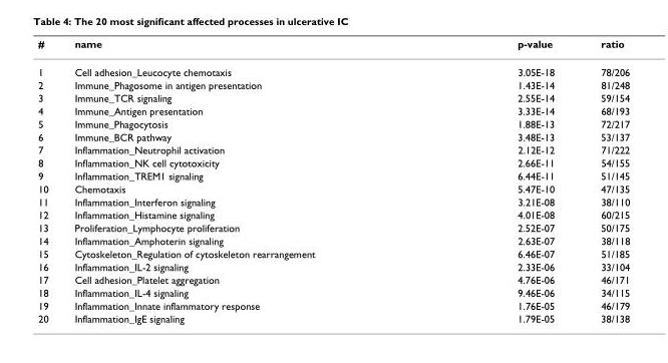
<table><thead><tr><td>#</td><td>name</td><td>p-value</td><td>ratio</td></tr></thead><tbody><tr><td>1</td><td>Cell adhesion_Leucocyte chemotaxis</td><td>3.05E-18</td><td>78/206</td></tr><tr><td>2</td><td>Immune_Phagosome in antigen presentation</td><td>1.43E-14</td><td>81/248</td></tr><tr><td>3</td><td>Immune_TCR signaling</td><td>2.55E-14</td><td>59/154</td></tr><tr><td>4</td><td>Immune_Antigen presentation</td><td>3.33E-14</td><td>68/193</td></tr><tr><td>5</td><td>Immune_Phagocytosis</td><td>1.88E-13</td><td>72/217</td></tr><tr><td>6</td><td>Immune_BCR pathway</td><td>3.48E-13</td><td>53/137</td></tr><tr><td>7</td><td>Inflammation_Neutrophil activation</td><td>2.12E-12</td><td>71/222</td></tr><tr><td>8</td><td>Inflammation_NK cell cytotoxicity</td><td>2.66E-11</td><td>54/155</td></tr><tr><td>9</td><td>Inflammation_TREM1 signaling</td><td>6.44E-11</td><td>51/145</td></tr><tr><td>10</td><td>Chemotaxis</td><td>5.47E-10</td><td>47/135</td></tr><tr><td>11</td><td>Inflammation_Interferon signaling</td><td>3.21E-08</td><td>38/110</td></tr><tr><td>12</td><td>Inflammation_Histamine signaling</td><td>4.01E-08</td><td>60/215</td></tr><tr><td>13</td><td>Proliferation_Lymphocyte proliferation</td><td>2.52E-07</td><td>50/175</td></tr><tr><td>14</td><td>Inflammation_Amphoterin signaling</td><td>2.63E-07</td><td>38/118</td></tr><tr><td>15</td><td>Cytoskeleton_Regulation of cytoskeleton rearrangement</td><td>6.46E-07</td><td>51/185</td></tr><tr><td>16</td><td>Inflammation_IL-2 signaling</td><td>2.33E-06</td><td>33/104</td></tr><tr><td>17</td><td>Cell adhesion_Platelet aggregation</td><td>4.76E-06</td><td>46/171</td></tr><tr><td>18</td><td>Inflammation_IL-4 signaling</td><td>9.46E-06</td><td>34/115</td></tr><tr><td>19</td><td>Inflammation_Innate inflammatory response</td><td>1.76E-05</td><td>46/179</td></tr><tr><td>20</td><td>Inflammation_IgE signaling</td><td>1.79E-05</td><td>38/138</td></tr></tbody></table>